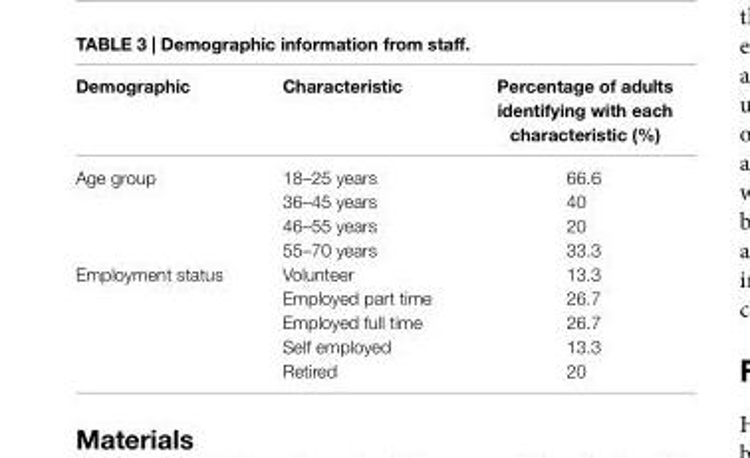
<table><thead><tr><td>Demographic</td><td>characteristic</td><td>Percentage of adults identifying with each characteristic (%)</td></tr></thead><tbody><tr><td rowspan="4">Age group</td><td>18–25 years</td><td>66.6</td></tr><tr><td>36–45 years</td><td>40</td></tr><tr><td>46–55 years</td><td>20</td></tr><tr><td>55–70 years</td><td>33.3</td></tr><tr><td rowspan="5">Employment status</td><td>Volunteer</td><td>13.3</td></tr><tr><td>Employed part time</td><td>26.7</td></tr><tr><td>Employed full time</td><td>26.7</td></tr><tr><td>Self employed</td><td>13.3</td></tr><tr><td>Retired</td><td>20</td></tr></tbody></table>